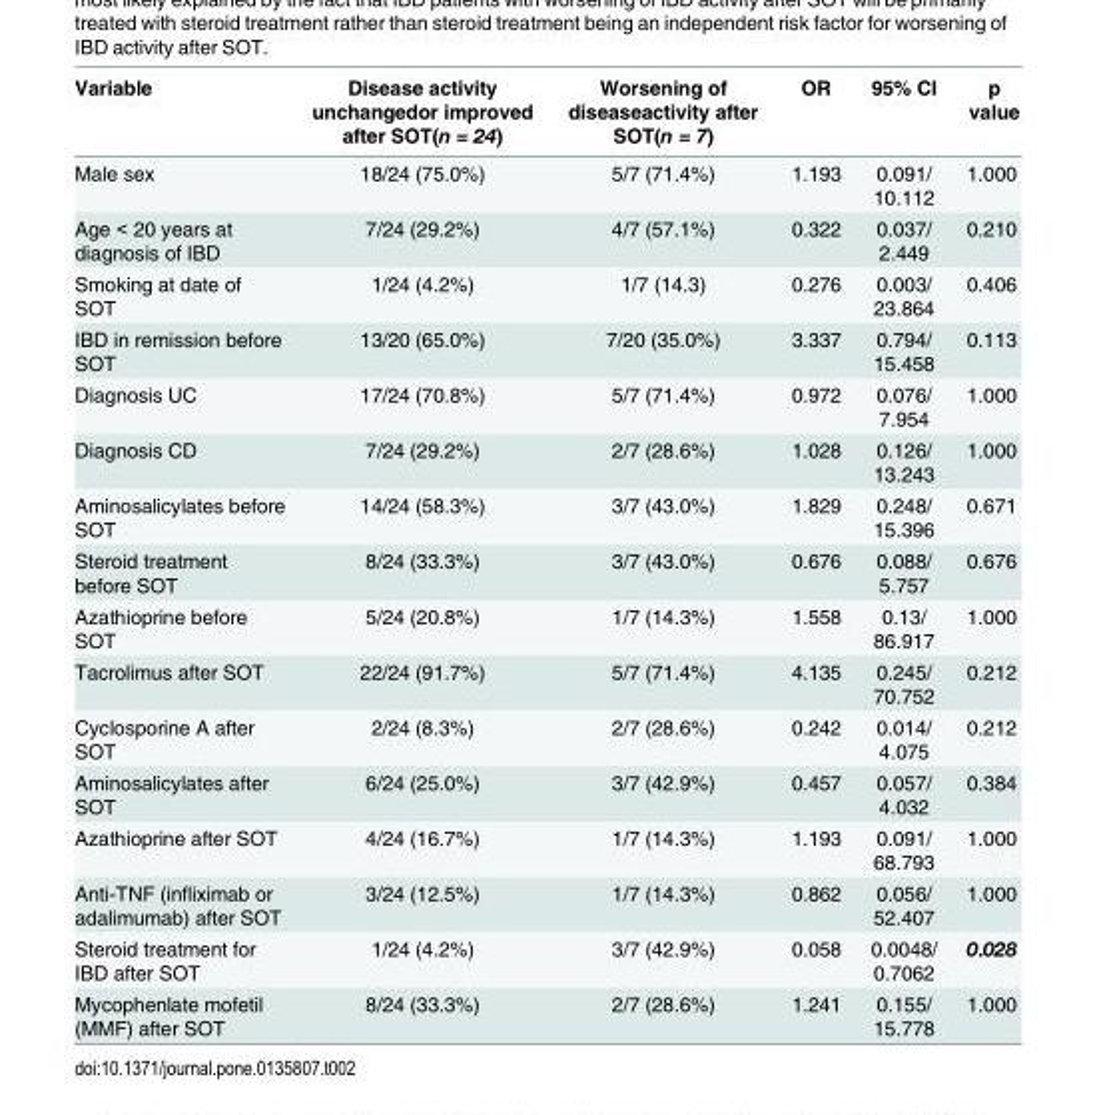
<table><thead><tr><td>Variable</td><td>Disease activity unchangedor improved after SOT(n = 24)</td><td>Worsening of diseaseactivity after SOT(n = 7)</td><td>OR</td><td>95% CI</td><td>p value</td></tr></thead><tbody><tr><td>Male sex</td><td>18/24 (75.0%)</td><td>5/7 (71.4%)</td><td>1.193</td><td>0.091/ 10.112</td><td>1.000</td></tr><tr><td>Age &lt; 20 years at diagnosis of IBD</td><td>7/24 (29.2%)</td><td>4/7 (57.1%)</td><td>0.322</td><td>0.037/ 2.449</td><td>0.210</td></tr><tr><td>Smoking at date of SOT</td><td>1/24 (4.2%)</td><td>1/7 (14.3)</td><td>0.276</td><td>0.003/ 23.864</td><td>0.406</td></tr><tr><td>IBD in remission before SOT</td><td>13/20 (65.0%)</td><td>7/20 (35.0%)</td><td>3.337</td><td>0.794/ 15.458</td><td>0.113</td></tr><tr><td>Diagnosis UC</td><td>17/24 (70.8%)</td><td>5/7 (71.4%)</td><td>0.972</td><td>0.076/ 7.954</td><td>1.000</td></tr><tr><td>Diagnosis CD</td><td>7/24 (29.2%)</td><td>2/7 (28.6%)</td><td>1.028</td><td>0.126/ 13.243</td><td>1.000</td></tr><tr><td>Aminosalicylates before SOT</td><td>14/24 (58.3%)</td><td>3/7 (43.0%)</td><td>1.829</td><td>0.248/ 15.396</td><td>0.671</td></tr><tr><td>Steroid treatment before SOT</td><td>8/24 (33.3%)</td><td>3/7 (43.0%)</td><td>0.676</td><td>0.088/ 5.757</td><td>0.676</td></tr><tr><td>Azathioprine before SOT</td><td>5/24 (20.8%)</td><td>1/7 (14.3%)</td><td>1.558</td><td>0.13/ 86.917</td><td>1.000</td></tr><tr><td>Tacrolimus after SOT</td><td>22/24 (91.7%)</td><td>5/7 (71.4%)</td><td>4.135</td><td>0.245/ 70.752</td><td>0.212</td></tr><tr><td>Cyclosporine A after SOT</td><td>2/24 (8.3%)</td><td>2/7 (28.6%)</td><td>0.242</td><td>0.014/ 4.075</td><td>0.212</td></tr><tr><td>Aminosalicylates after SOT</td><td>6/24 (25.0%)</td><td>3/7 (42.9%)</td><td>0.457</td><td>0.057/ 4.032</td><td>0.384</td></tr><tr><td>Azathioprine after SOT</td><td>4/24 (16.7%)</td><td>1/7 (14.3%)</td><td>1.193</td><td>0.091/ 68.793</td><td>1.000</td></tr><tr><td>Anti-TNF (infliximab or adalimumab) after SOT</td><td>3/24 (12.5%)</td><td>1/7 (14.3%)</td><td>0.862</td><td>0.056/ 52.407</td><td>1.000</td></tr><tr><td>Steroid treatment for IBD after SOT</td><td>1/24 (4.2%)</td><td>3/7 (42.9%)</td><td>0.058</td><td>0.0048/ 0.7062</td><td>0.028</td></tr><tr><td>Mycophenlate mofetil (MMF) after SOT</td><td>8/24 (33.3%)</td><td>2/7 (28.6%)</td><td>1.241</td><td>0.155/ 15.778</td><td>1.000</td></tr></tbody></table>